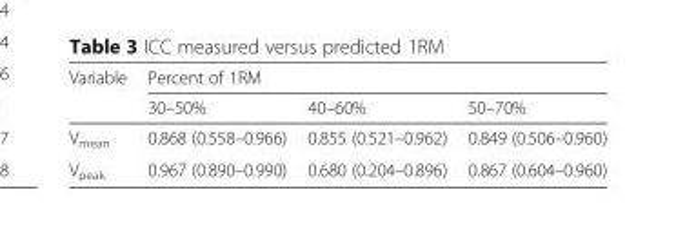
<table><thead><tr><td rowspan="2">Variable</td><td colspan="3">Percent of 1RM</td></tr><tr><td>30–50%</td><td>40–60%</td><td>50–70%</td></tr></thead><tbody><tr><td>V<sub>mean</sub></td><td>0.868 (0.558–0.966)</td><td>0.855 (0.521–0.962)</td><td>0.849 (0.506–0.960)</td></tr><tr><td>V<sub>peak</sub></td><td>0.967 (0.890–0.990)</td><td>0.680 (0.204–0.896)</td><td>0.867 (0.604–0.960)</td></tr></tbody></table>